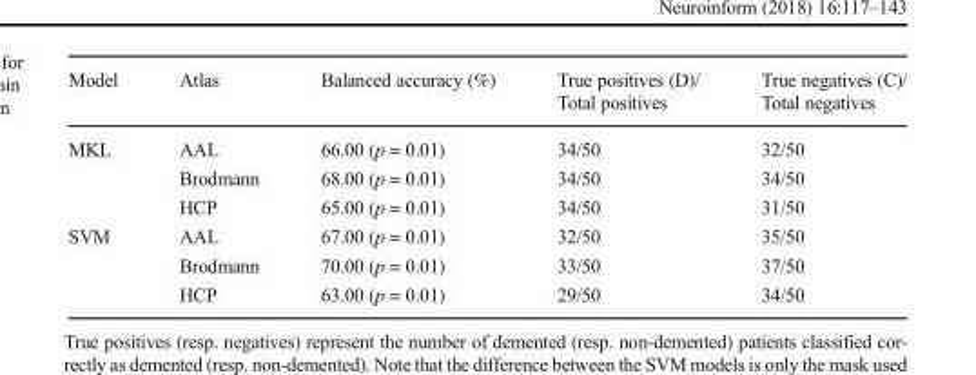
<table><thead><tr><td>Model</td><td>Atlas</td><td>Balanced accuracy (%)</td><td>True positives (D)/ Total positives</td><td>True negatives (C)/ Total negatives</td></tr></thead><tbody><tr><td rowspan="3">MKL</td><td>AAL</td><td>66.00 (p = 0.01)</td><td>34/50</td><td>32/50</td></tr><tr><td>Brodmann</td><td>68.00 (p = 0.01)</td><td>34/50</td><td>34/50</td></tr><tr><td>HCP</td><td>65.00 (p = 0.01)</td><td>34/50</td><td>31/50</td></tr><tr><td rowspan="3">SVM</td><td>AAL</td><td>67.00 (p = 0.01)</td><td>32/50</td><td>35/50</td></tr><tr><td>Brodmann</td><td>70.00 (p = 0.01)</td><td>33/50</td><td>37/50</td></tr><tr><td>HCP</td><td>63.00 (p = 0.01)</td><td>29/50</td><td>34/50</td></tr></tbody></table>